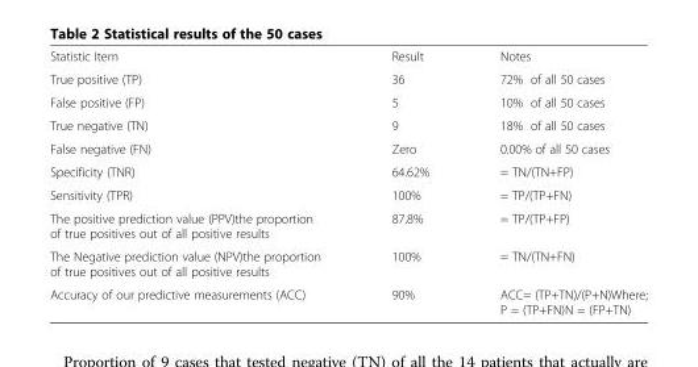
<table><tbody><tr><td>Statistic Item</td><td>Result</td><td>Notes</td></tr><tr><td>True positive (TP)</td><td>36</td><td>72% of all 50 cases</td></tr><tr><td>False positive (FP)</td><td>5</td><td>10% of all 50 cases</td></tr><tr><td>True negative (TN)</td><td>9</td><td>18% of all 50 cases</td></tr><tr><td>False negative (FN)</td><td>Zero</td><td>0.00% of all 50 cases</td></tr><tr><td>Specificity (TNR)</td><td>64.62%</td><td>= TN/(TN+FP)</td></tr><tr><td>Sensitivity (TPR)</td><td>100%</td><td>= TP/(TP+FN)</td></tr><tr><td>The positive prediction value (PPV)the proportion of true positives out of all positive results</td><td>87.8%</td><td>= TP/(TP+FP)</td></tr><tr><td>The Negative prediction value (NPV)the proportion of true positives out of all positive results</td><td>100%</td><td>= TN/(TN+FN)</td></tr><tr><td>Accuracy of our predictive measurements (ACC)</td><td>90%</td><td>ACC= (TP+TN)/(P+N)Where; P = (TP+FN)N = (FP+TN)</td></tr></tbody></table>